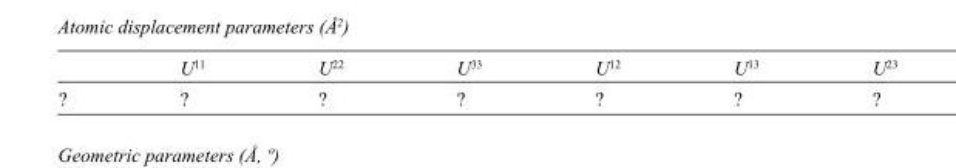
<table><thead><tr><td></td><td>U<sup>11</sup></td><td>U<sup>22</sup></td><td>U<sup>33</sup></td><td>U<sup>12</sup></td><td>U<sup>13</sup></td><td>U<sup>23</sup></td></tr></thead><tbody><tr><td>?</td><td>?</td><td>?</td><td>?</td><td>?</td><td>?</td><td>?</td></tr></tbody></table>